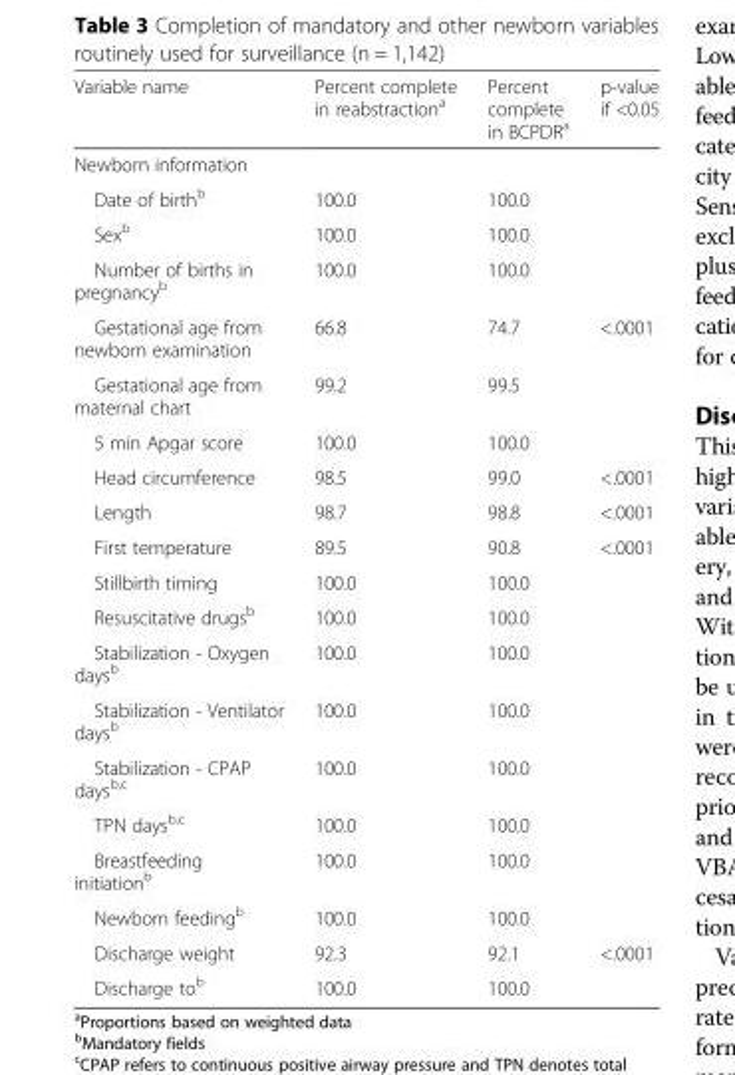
<table><thead><tr><td>Variable name</td><td>Percent complete in reabstraction<sup>a</sup></td><td>Percent complete in BCPDR<sup>a</sup></td><td>p-value if &lt;0.05</td></tr></thead><tbody><tr><td colspan="4">Newborn information</td></tr><tr><td>Date of birth<sup>b</sup></td><td>100.0</td><td>100.0</td><td></td></tr><tr><td>Sex<sup>b</sup></td><td>100.0</td><td>100.0</td><td></td></tr><tr><td>Number of births in pregnancy<sup>b</sup></td><td>100.0</td><td>100.0</td><td></td></tr><tr><td>Gestational age from newborn examination</td><td>66.8</td><td>74.7</td><td>&lt;.0001</td></tr><tr><td>Gestational age from maternal chart</td><td>99.2</td><td>99.5</td><td></td></tr><tr><td>5 min Apgar score</td><td>100.0</td><td>100.0</td><td></td></tr><tr><td>Head circumference</td><td>98.5</td><td>99.0</td><td>&lt;.0001</td></tr><tr><td>Length</td><td>98.7</td><td>98.8</td><td>&lt;.0001</td></tr><tr><td>First temperature</td><td>89.5</td><td>90.8</td><td>&lt;.0001</td></tr><tr><td>Stillbirth timing</td><td>100.0</td><td>100.0</td><td></td></tr><tr><td>Resuscitative drugs<sup>b</sup></td><td>100.0</td><td>100.0</td><td></td></tr><tr><td>Stabilization - Oxygen days<sup>b</sup></td><td>100.0</td><td>100.0</td><td></td></tr><tr><td>Stabilization - Ventilator days<sup>b</sup></td><td>100.0</td><td>100.0</td><td></td></tr><tr><td>Stabilization - CPAP days<sup>b,c</sup></td><td>100.0</td><td>100.0</td><td></td></tr><tr><td>TPN days<sup>b,c</sup></td><td>100.0</td><td>100.0</td><td></td></tr><tr><td>Breastfeeding initiation<sup>b</sup></td><td>100.0</td><td>100.0</td><td></td></tr><tr><td>Newborn feeding<sup>b</sup></td><td>100.0</td><td>100.0</td><td></td></tr><tr><td>Discharge weight</td><td>92.3</td><td>92.1</td><td>&lt;.0001</td></tr><tr><td>Discharge to<sup>b</sup></td><td>100.0</td><td>100.0</td><td></td></tr></tbody></table>